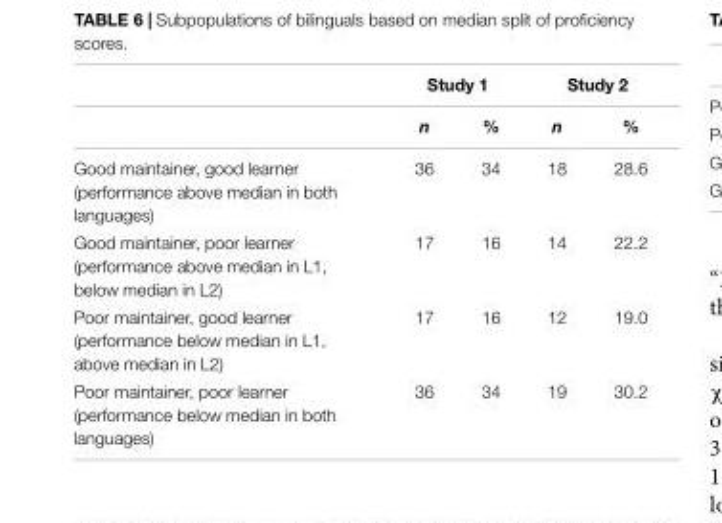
<table><thead><tr><td rowspan="2"></td><td colspan="2">Study 1</td><td colspan="2">Study 2</td></tr><tr><td>n</td><td>%</td><td>n</td><td>%</td></tr></thead><tbody><tr><td>Good maintainer, good learner (performance above median in both languages)</td><td>36</td><td>34</td><td>18</td><td>28.6</td></tr><tr><td>Good maintainer, poor learner (performance above median in L1, below median in L2)</td><td>17</td><td>16</td><td>14</td><td>22.2</td></tr><tr><td>Poor maintainer, good learner (performance below median in L1, above median in L2)</td><td>17</td><td>16</td><td>12</td><td>19.0</td></tr><tr><td>Poor maintainer, poor learner (performance below median in both languages)</td><td>36</td><td>34</td><td>19</td><td>30.2</td></tr></tbody></table>